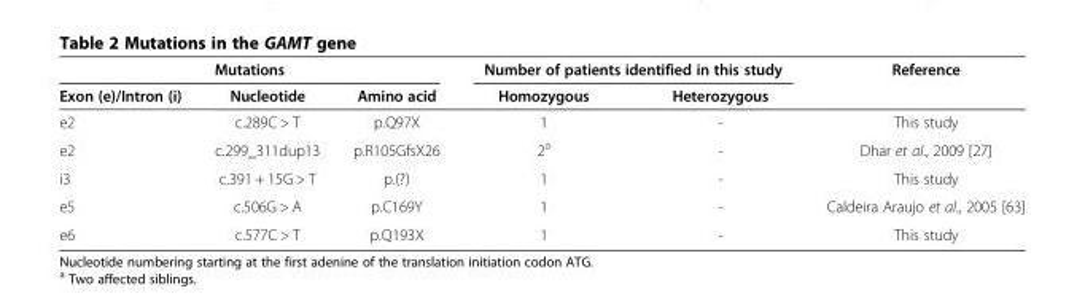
<table><thead><tr><td colspan="3">Mutations</td><td colspan="2">Number of patients identified in this study</td><td rowspan="2">Reference</td></tr><tr><td>Exon (e)/Intron (i)</td><td>Nucleotide</td><td>Amino acid</td><td>Homozygous</td><td>Heterozygous</td></tr></thead><tbody><tr><td>e2</td><td>c.289C &gt; T</td><td>p.Q97X</td><td>1</td><td>-</td><td>This study</td></tr><tr><td>e2</td><td>c.299_311dup13</td><td>p.R105GfsX26</td><td>2<sup>a</sup></td><td>-</td><td>Dhar et al., 2009 [27]</td></tr><tr><td>i3</td><td>c.391 + 15G &gt; T</td><td>p.(?)</td><td>1</td><td>-</td><td>This study</td></tr><tr><td>e5</td><td>c.506G &gt; A</td><td>p.C169Y</td><td>1</td><td>-</td><td>Caldeira Araujo et al., 2005 [63]</td></tr><tr><td>e6</td><td>c.577C &gt; T</td><td>p.Q193X</td><td>1</td><td>-</td><td>This study</td></tr></tbody></table>